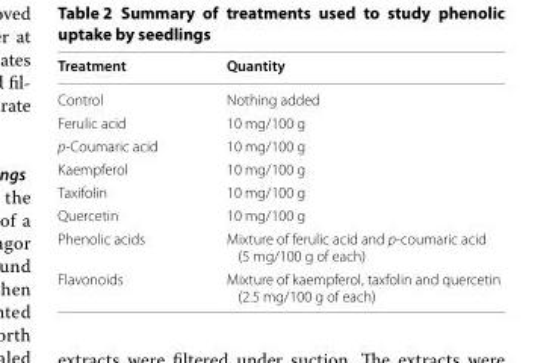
<table><thead><tr><td>Treatment</td><td>Quantity</td></tr></thead><tbody><tr><td>Control</td><td>Nothing added</td></tr><tr><td>Ferulic acid</td><td>10 mg/100 g</td></tr><tr><td>p-Coumaric acid</td><td>10 mg/100 g</td></tr><tr><td>Kaempferol</td><td>10 mg/100 g</td></tr><tr><td>Taxifolin</td><td>10 mg/100 g</td></tr><tr><td>Quercetin</td><td>10 mg/100 g</td></tr><tr><td>Phenolic acids</td><td>Mixture of ferulic acid and p-coumaric acid (5 mg/100 g of each)</td></tr><tr><td>Flavonoids</td><td>Mixture of kaempferol, taxfolin and quercetin (2.5 mg/100 g of each)</td></tr></tbody></table>